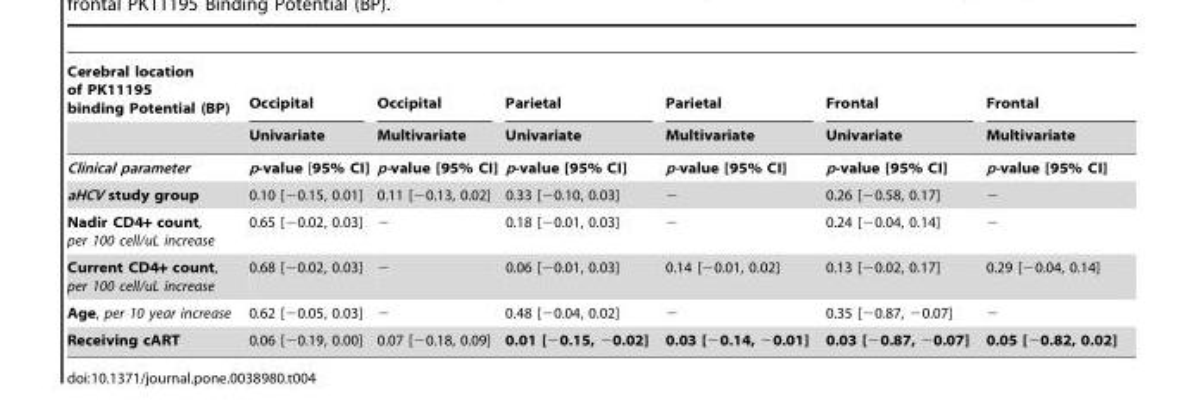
<table><thead><tr><td rowspan="2">Cerebral location of PK11195 binding Potential (BP)</td><td rowspan="2">Occipital Univariate</td><td rowspan="2">Occipital Multivariate</td><td rowspan="2">Parietal Univariate</td><td rowspan="2">Parietal Multivariate</td><td rowspan="2">Frontal Univariate</td><td rowspan="2">Frontal Multivariate</td></tr><tr></tr></thead><tbody><tr><td>Clinical parameter</td><td>p-value [95% CI]</td><td>p-value [95% CI]</td><td>p-value [95% CI]</td><td>p-value [95% CI]</td><td>p-value [95% CI]</td><td>p-value [95% CI]</td></tr><tr><td>aHCV study group</td><td>0.10 [−0.15, 0.01]</td><td>0.11 [−0.13, 0.02]</td><td>0.33 [−0.10, 0.03]</td><td>−</td><td>0.26 [−0.58, 0.17]</td><td>−</td></tr><tr><td>Nadir CD4+ count, per 100 cell/uL increase</td><td>0.65 [−0.02, 0.03]</td><td>−</td><td>0.18 [−0.01, 0.03]</td><td>−</td><td>0.24 [−0.04, 0.14]</td><td>−</td></tr><tr><td>Current CD4+ count, per 100 cell/uL increase</td><td>0.68 [−0.02, 0.03]</td><td>−</td><td>0.06 [−0.01, 0.03]</td><td>0.14 [−0.01, 0.02]</td><td>0.13 [−0.02, 0.17]</td><td>0.29 [−0.04, 0.14]</td></tr><tr><td>Age, per 10 year increase</td><td>0.62 [−0.05, 0.03]</td><td>−</td><td>0.48 [−0.04, 0.02]</td><td>−</td><td>0.35 [−0.87, −0.07]</td><td>−</td></tr><tr><td>Receiving cART</td><td>0.06 [−0.19, 0.00]</td><td>0.07 [−0.18, 0.09]</td><td>0.01 [−0.15, −0.02]</td><td>0.03 [−0.14, −0.01]</td><td>0.03 [−0.87, −0.07]</td><td>0.05 [−0.82, 0.02]</td></tr></tbody></table>